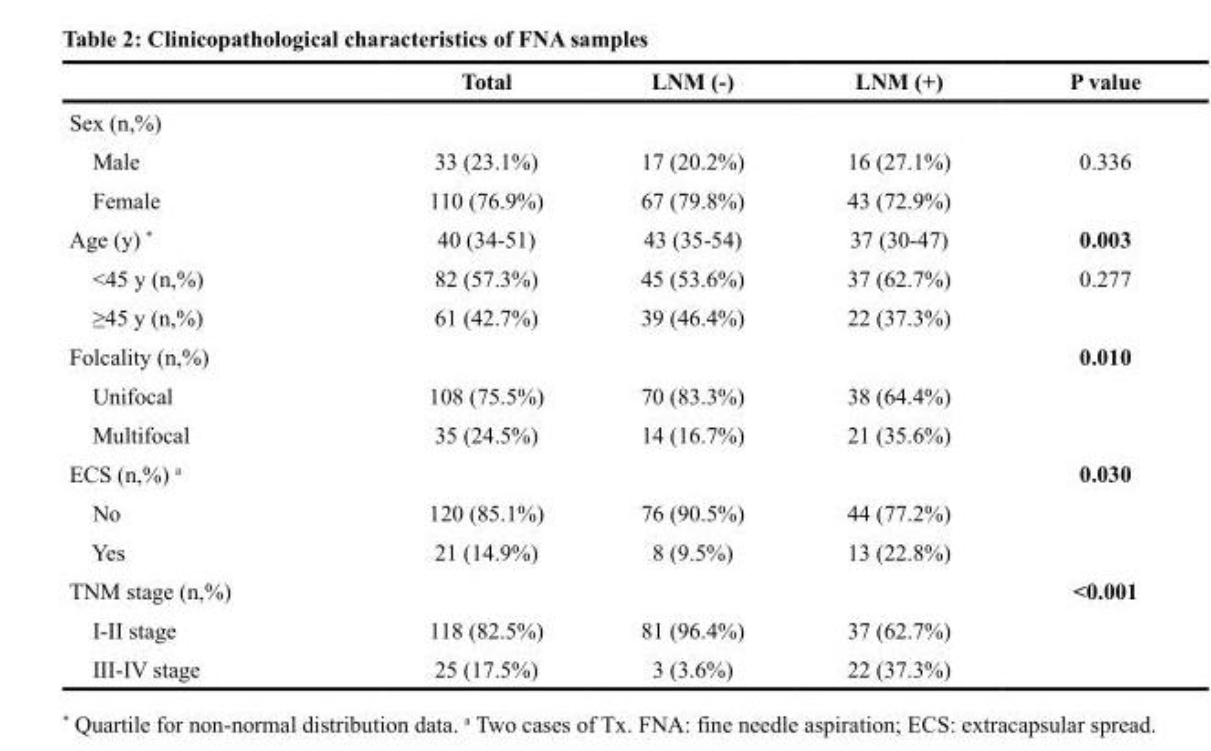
<table><thead><tr><td></td><td>Total</td><td>LNM (-)</td><td>LNM (+)</td><td>P value</td></tr></thead><tbody><tr><td colspan="5">Sex (n,%)</td></tr><tr><td>Male</td><td>33 (23.1%)</td><td>17 (20.2%)</td><td>16 (27.1%)</td><td>0.336</td></tr><tr><td>Female</td><td>110 (76.9%)</td><td>67 (79.8%)</td><td>43 (72.9%)</td><td></td></tr><tr><td>Age (y) *</td><td>40 (34-51)</td><td>43 (35-54)</td><td>37 (30-47)</td><td>0.003</td></tr><tr><td>&lt;45 y (n,%)</td><td>82 (57.3%)</td><td>45 (53.6%)</td><td>37 (62.7%)</td><td>0.277</td></tr><tr><td>≥45 y (n,%)</td><td>61 (42.7%)</td><td>39 (46.4%)</td><td>22 (37.3%)</td><td></td></tr><tr><td>Folcality (n,%)</td><td></td><td></td><td></td><td>0.010</td></tr><tr><td>Unifocal</td><td>108 (75.5%)</td><td>70 (83.3%)</td><td>38 (64.4%)</td><td></td></tr><tr><td>Multifocal</td><td>35 (24.5%)</td><td>14 (16.7%)</td><td>21 (35.6%)</td><td></td></tr><tr><td>ECS (n,%) <sup>a</sup></td><td></td><td></td><td></td><td>0.030</td></tr><tr><td>No</td><td>120 (85.1%)</td><td>76 (90.5%)</td><td>44 (77.2%)</td><td></td></tr><tr><td>Yes</td><td>21 (14.9%)</td><td>8 (9.5%)</td><td>13 (22.8%)</td><td></td></tr><tr><td>TNM stage (n,%)</td><td></td><td></td><td></td><td>&lt;0.001</td></tr><tr><td>I-II stage</td><td>118 (82.5%)</td><td>81 (96.4%)</td><td>37 (62.7%)</td><td></td></tr><tr><td>III-IV stage</td><td>25 (17.5%)</td><td>3 (3.6%)</td><td>22 (37.3%)</td><td></td></tr></tbody></table>